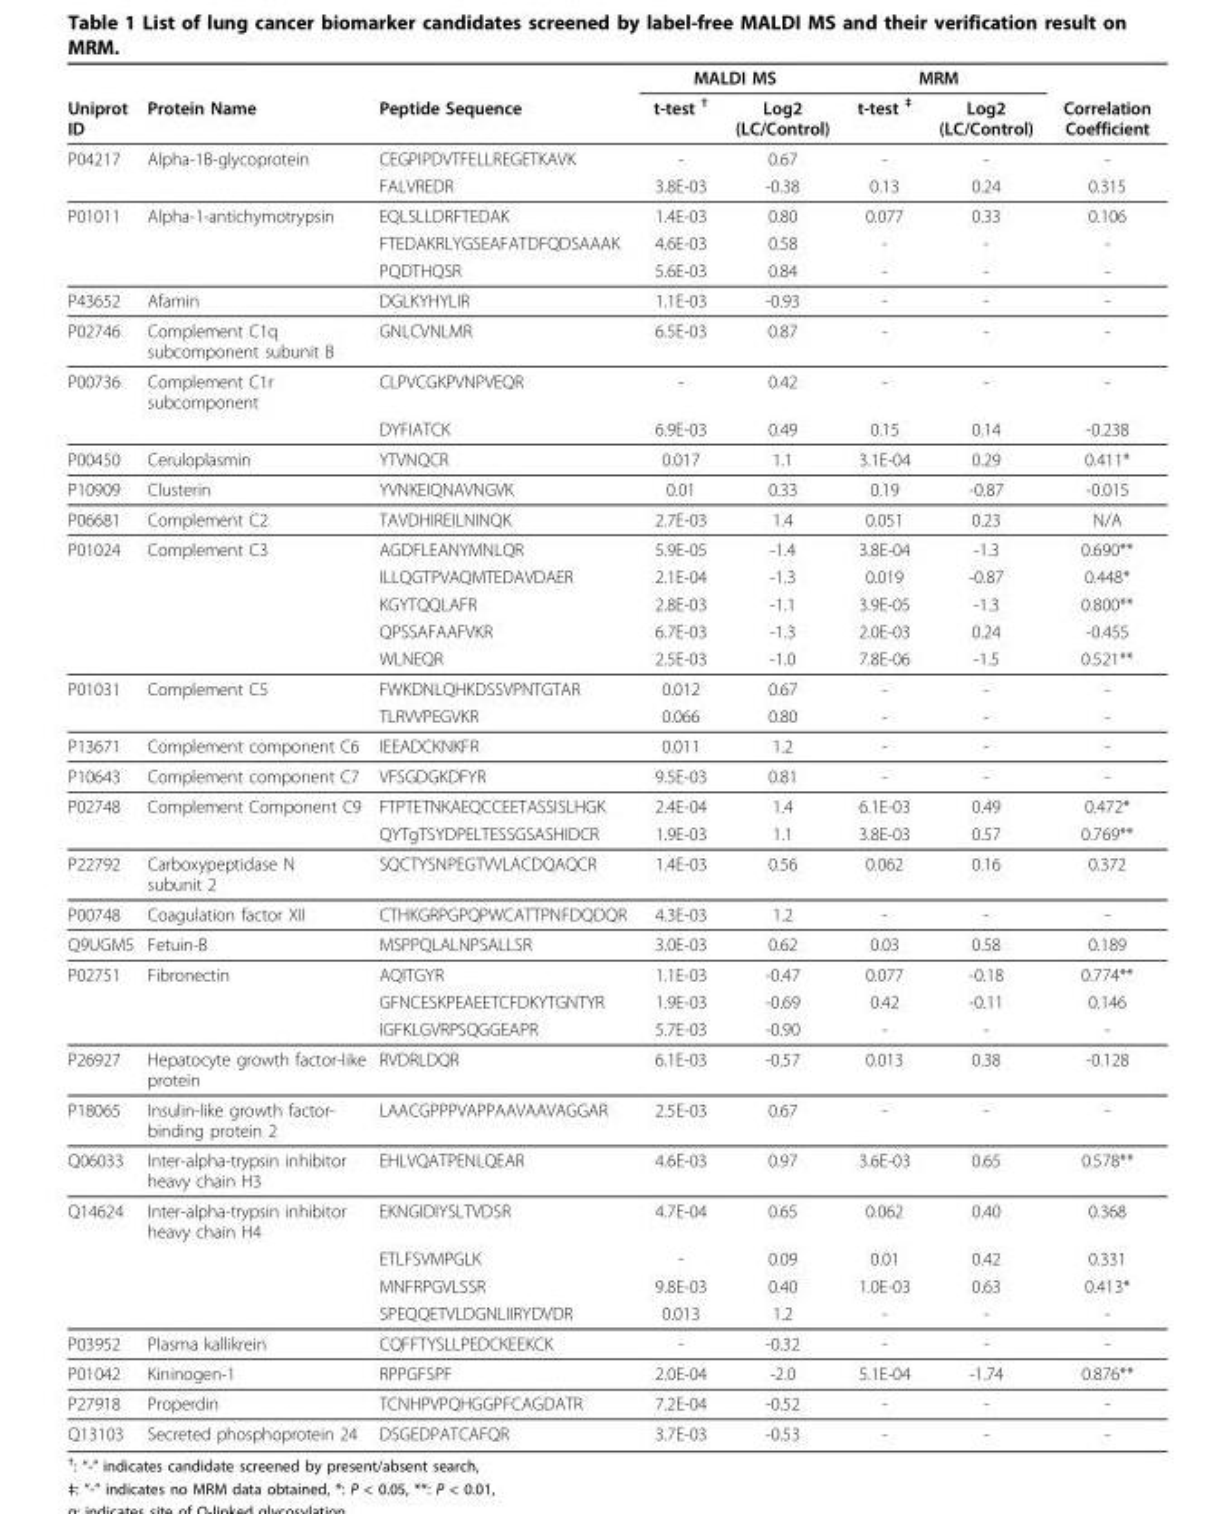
<table><thead><tr><td rowspan="2">Uniprot ID</td><td rowspan="2">Protein Name</td><td rowspan="2">Peptide Sequence</td><td colspan="2">MALDI MS</td><td colspan="2">MRM</td><td rowspan="2">Correlation Coefficient</td></tr><tr><td>t-test <sup>†</sup></td><td>Log2 (LC/Control)</td><td>t-test <sup>‡</sup></td><td>Log2 (LC/Control)</td></tr></thead><tbody><tr><td rowspan="2">P04217</td><td>Alpha-1B-glycoprotein</td><td>CEGPIPDVTFELLREGETKAVK</td><td>-</td><td>0.67</td><td>-</td><td>-</td><td>-</td></tr><tr><td></td><td>FALVREDR</td><td>3.8E-03</td><td>-0.38</td><td>0.13</td><td>0.24</td><td>0.315</td></tr><tr><td rowspan="3">P01011</td><td>Alpha-1-antichymotrypsin</td><td>EQLSLLDRFTEDAK</td><td>1.4E-03</td><td>0.80</td><td>0.077</td><td>0.33</td><td>0.106</td></tr><tr><td></td><td>FTEDAKRLYGSEAFATDFQDSAAAK</td><td>4.6E-03</td><td>0.58</td><td>-</td><td>-</td><td>-</td></tr><tr><td></td><td>PQDTHQSR</td><td>5.6E-03</td><td>0.84</td><td>-</td><td>-</td><td>-</td></tr><tr><td>P43652</td><td>Afamin</td><td>DGLKYHYLIR</td><td>1.1E-03</td><td>-0.93</td><td>-</td><td>-</td><td>-</td></tr><tr><td>P02746</td><td>Complement C1q subcomponent subunit B</td><td>GNLCVNLMR</td><td>6.5E-03</td><td>0.87</td><td>-</td><td>-</td><td>-</td></tr><tr><td rowspan="2">P00736</td><td>Complement C1r subcomponent</td><td>CLPVCGKPVNPVEQR</td><td>-</td><td>0.42</td><td>-</td><td>-</td><td>-</td></tr><tr><td></td><td>DYFIATCK</td><td>6.9E-03</td><td>0.49</td><td>0.15</td><td>0.14</td><td>-0.238</td></tr><tr><td>P00450</td><td>Ceruloplasmin</td><td>YTVNQCR</td><td>0.017</td><td>1.1</td><td>3.1E-04</td><td>0.29</td><td>0.411*</td></tr><tr><td>P10909</td><td>Clusterin</td><td>YVNKEIQNAVNGVK</td><td>0.01</td><td>0.33</td><td>0.19</td><td>-0.87</td><td>-0.015</td></tr><tr><td>P06681</td><td>Complement C2</td><td>TAVDHIREILNINQK</td><td>2.7E-03</td><td>1.4</td><td>0.051</td><td>0.23</td><td>N/A</td></tr><tr><td rowspan="5">P01024</td><td>Complement C3</td><td>AGDFLEANYMNLQR</td><td>5.9E-05</td><td>-1.4</td><td>3.8E-04</td><td>-1.3</td><td>0.690**</td></tr><tr><td></td><td>ILLQGTPVAQMTEDAVDAER</td><td>2.1E-04</td><td>-1.3</td><td>0.019</td><td>-0.87</td><td>0.448*</td></tr><tr><td></td><td>KGYTQQLAFR</td><td>2.8E-03</td><td>-1.1</td><td>3.9E-05</td><td>-1.3</td><td>0.800**</td></tr><tr><td></td><td>QPSSAFAAFVKR</td><td>6.7E-03</td><td>-1.3</td><td>2.0E-03</td><td>0.24</td><td>-0.455</td></tr><tr><td></td><td>WLNEQR</td><td>2.5E-03</td><td>-1.0</td><td>7.8E-06</td><td>-1.5</td><td>0.521**</td></tr><tr><td rowspan="2">P01031</td><td>Complement C5</td><td>FWKDNLQHKDSSVPNTGTAR</td><td>0.012</td><td>0.67</td><td>-</td><td>-</td><td>-</td></tr><tr><td></td><td>TLRVVPEGVKR</td><td>0.066</td><td>0.80</td><td>-</td><td>-</td><td>-</td></tr><tr><td>P13671</td><td>Complement component C6</td><td>IEEADCKNKFR</td><td>0.011</td><td>1.2</td><td>-</td><td>-</td><td>-</td></tr><tr><td>P10643</td><td>Complement component C7</td><td>VFSGDGKDFYR</td><td>9.5E-03</td><td>0.81</td><td>-</td><td>-</td><td>-</td></tr><tr><td rowspan="2">P02748</td><td>Complement Component C9</td><td>FTPTETNKAEQCCEETASSISLHGK</td><td>2.4E-04</td><td>1.4</td><td>6.1E-03</td><td>0.49</td><td>0.472*</td></tr><tr><td></td><td>QYTgTSYDPELTESSGSASHIDCR</td><td>1.9E-03</td><td>1.1</td><td>3.8E-03</td><td>0.57</td><td>0.769**</td></tr><tr><td>P22792</td><td>Carboxypeptidase N subunit 2</td><td>SQCTYSNPEGTVVLACDQAQCR</td><td>1.4E-03</td><td>0.56</td><td>0.062</td><td>0.16</td><td>0.372</td></tr><tr><td>P00748</td><td>Coagulation factor XII</td><td>CTHKGRPGPQPWCATTPNFDQDQR</td><td>4.3E-03</td><td>1.2</td><td>-</td><td>-</td><td>-</td></tr><tr><td>Q9UGM5</td><td>Fetuin-B</td><td>MSPPQLALNPSALLSR</td><td>3.0E-03</td><td>0.62</td><td>0.03</td><td>0.58</td><td>0.189</td></tr><tr><td rowspan="3">P02751</td><td>Fibronectin</td><td>AQITGYR</td><td>1.1E-03</td><td>-0.47</td><td>0.077</td><td>-0.18</td><td>0.774**</td></tr><tr><td></td><td>GFNCESKPEAEETCFDKYTGNTYR</td><td>1.9E-03</td><td>-0.69</td><td>0.42</td><td>-0.11</td><td>0.146</td></tr><tr><td></td><td>IGFKLGVRPSQGGEAPR</td><td>5.7E-03</td><td>-0.90</td><td>-</td><td>-</td><td>-</td></tr><tr><td>P26927</td><td>Hepatocyte growth factor-like protein</td><td>RVDRLDQR</td><td>6.1E-03</td><td>-0.57</td><td>0.013</td><td>0.38</td><td>-0.128</td></tr><tr><td>P18065</td><td>Insulin-like growth factor- binding protein 2</td><td>LAACGPPPVAPPAAVAAVAGGAR</td><td>2.5E-03</td><td>0.67</td><td>-</td><td>-</td><td>-</td></tr><tr><td>Q06033</td><td>Inter-alpha-trypsin inhibitor heavy chain H3</td><td>EHLVQATPENLQEAR</td><td>4.6E-03</td><td>0.97</td><td>3.6E-03</td><td>0.65</td><td>0.578**</td></tr><tr><td rowspan="4">Q14624</td><td>Inter-alpha-trypsin inhibitor heavy chain H4</td><td>EKNGIDIYSLTVDSR</td><td>4.7E-04</td><td>0.65</td><td>0.062</td><td>0.40</td><td>0.368</td></tr><tr><td></td><td>ETLFSVMPGLK</td><td>-</td><td>0.09</td><td>0.01</td><td>0.42</td><td>0.331</td></tr><tr><td></td><td>MNFRPGVLSSR</td><td>9.8E-03</td><td>0.40</td><td>1.0E-03</td><td>0.63</td><td>0.413*</td></tr><tr><td></td><td>SPEQQETVLDGNLIIRYDVDR</td><td>0.013</td><td>1.2</td><td>-</td><td>-</td><td>-</td></tr><tr><td>P03952</td><td>Plasma kallikrein</td><td>CQFFTYSLLPEDCKEEKCK</td><td>-</td><td>-0.32</td><td>-</td><td>-</td><td>-</td></tr><tr><td>P01042</td><td>Kininogen-1</td><td>RPPGFSPF</td><td>2.0E-04</td><td>-2.0</td><td>5.1E-04</td><td>-1.74</td><td>0.876**</td></tr><tr><td>P27918</td><td>Properdin</td><td>TCNHPVPQHGGPFCAGDATR</td><td>7.2E-04</td><td>-0.52</td><td>-</td><td>-</td><td>-</td></tr><tr><td>Q13103</td><td>Secreted phosphoprotein 24</td><td>DSGEDPATCAFQR</td><td>3.7E-03</td><td>-0.53</td><td>-</td><td>-</td><td>-</td></tr></tbody></table>